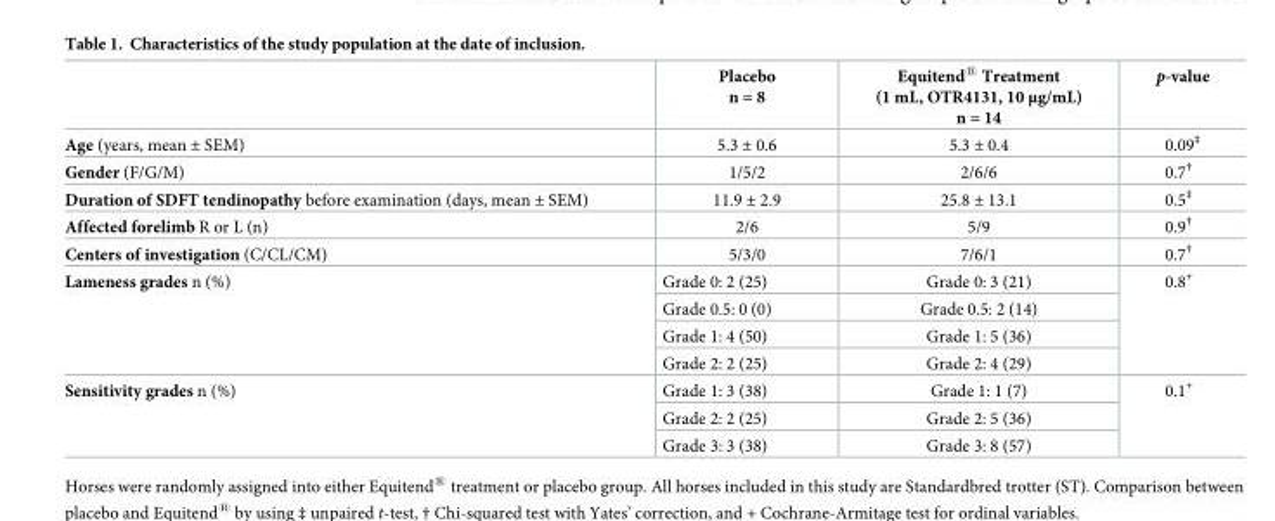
<table><thead><tr><td></td><td>Placebo n = 8</td><td>Equitend<sup>®</sup> Treatment (1 mL, OTR4131, 10 μg/mL) n = 14</td><td>p-value</td></tr></thead><tbody><tr><td>Age (years, mean ± SEM)</td><td>5.3 ± 0.6</td><td>5.3 ± 0.4</td><td>0.09<sup>‡</sup></td></tr><tr><td>Gender (F/G/M)</td><td>1/5/2</td><td>2/6/6</td><td>0.7<sup>†</sup></td></tr><tr><td>Duration of SDFT tendinopathy before examination (days, mean ± SEM)</td><td>11.9 ± 2.9</td><td>25.8 ± 13.1</td><td>0.5<sup>‡</sup></td></tr><tr><td>Affected forelimb R or L (n)</td><td>2/6</td><td>5/9</td><td>0.9<sup>†</sup></td></tr><tr><td>Centers of investigation (C/CL/CM)</td><td>5/3/0</td><td>7/6/1</td><td>0.7<sup>†</sup></td></tr><tr><td rowspan="4">Lameness grades n (%)</td><td>Grade 0: 2 (25)</td><td>Grade 0: 3 (21)</td><td rowspan="4">0.8<sup>+</sup></td></tr><tr><td>Grade 0.5: 0 (0)</td><td>Grade 0.5: 2 (14)</td></tr><tr><td>Grade 1: 4 (50)</td><td>Grade 1: 5 (36)</td></tr><tr><td>Grade 2: 2 (25)</td><td>Grade 2: 4 (29)</td></tr><tr><td rowspan="3">Sensitivity grades n (%)</td><td>Grade 1: 3 (38)</td><td>Grade 1: 1 (7)</td><td rowspan="3">0.1<sup>+</sup></td></tr><tr><td>Grade 2: 2 (25)</td><td>Grade 2: 5 (36)</td></tr><tr><td>Grade 3: 3 (38)</td><td>Grade 3: 8 (57)</td></tr></tbody></table>